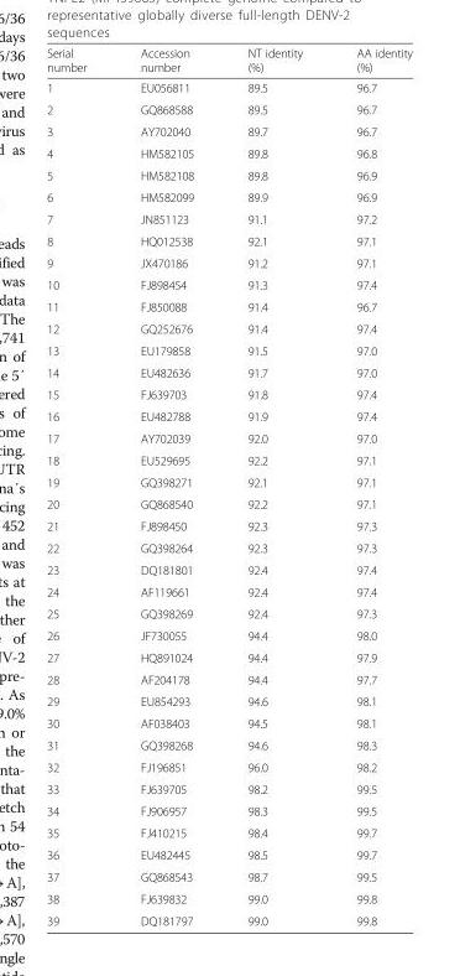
<table><thead><tr><td>Serial number</td><td>Accession number</td><td>NT identity (%)</td><td>AA identity (%)</td></tr></thead><tbody><tr><td>1</td><td>EU056811</td><td>89.5</td><td>96.7</td></tr><tr><td>2</td><td>GQ868588</td><td>89.5</td><td>96.7</td></tr><tr><td>3</td><td>AY702040</td><td>89.7</td><td>96.7</td></tr><tr><td>4</td><td>HM582105</td><td>89.8</td><td>96.8</td></tr><tr><td>5</td><td>HM582108</td><td>89.8</td><td>96.9</td></tr><tr><td>6</td><td>HM582099</td><td>89.9</td><td>96.9</td></tr><tr><td>7</td><td>JN851123</td><td>91.1</td><td>97.2</td></tr><tr><td>8</td><td>HQ012538</td><td>92.1</td><td>97.1</td></tr><tr><td>9</td><td>JX470186</td><td>91.2</td><td>97.1</td></tr><tr><td>10</td><td>FJ898454</td><td>91.3</td><td>97.4</td></tr><tr><td>11</td><td>FJ850088</td><td>91.4</td><td>96.7</td></tr><tr><td>12</td><td>GQ252676</td><td>91.4</td><td>97.4</td></tr><tr><td>13</td><td>EU179858</td><td>91.5</td><td>97.0</td></tr><tr><td>14</td><td>EU482636</td><td>91.7</td><td>97.0</td></tr><tr><td>15</td><td>FJ639703</td><td>91.8</td><td>97.4</td></tr><tr><td>16</td><td>EU482788</td><td>91.9</td><td>97.4</td></tr><tr><td>17</td><td>AY702039</td><td>92.0</td><td>97.0</td></tr><tr><td>18</td><td>EU529695</td><td>92.2</td><td>97.1</td></tr><tr><td>19</td><td>GQ398271</td><td>92.1</td><td>97.1</td></tr><tr><td>20</td><td>GQ868540</td><td>92.2</td><td>97.1</td></tr><tr><td>21</td><td>FJ898450</td><td>92.3</td><td>97.3</td></tr><tr><td>22</td><td>GQ398264</td><td>92.3</td><td>97.3</td></tr><tr><td>23</td><td>DQ181801</td><td>92.4</td><td>97.4</td></tr><tr><td>24</td><td>AF119661</td><td>92.4</td><td>97.4</td></tr><tr><td>25</td><td>GQ398269</td><td>92.4</td><td>97.3</td></tr><tr><td>26</td><td>JF730055</td><td>94.4</td><td>98.0</td></tr><tr><td>27</td><td>HQ891024</td><td>94.4</td><td>97.9</td></tr><tr><td>28</td><td>AF204178</td><td>94.4</td><td>97.7</td></tr><tr><td>29</td><td>EU854293</td><td>94.6</td><td>98.1</td></tr><tr><td>30</td><td>AF038403</td><td>94.5</td><td>98.1</td></tr><tr><td>31</td><td>GQ398268</td><td>94.6</td><td>98.3</td></tr><tr><td>32</td><td>FJ196851</td><td>96.0</td><td>98.2</td></tr><tr><td>33</td><td>FJ639705</td><td>98.2</td><td>99.5</td></tr><tr><td>34</td><td>FJ906957</td><td>98.3</td><td>99.5</td></tr><tr><td>35</td><td>FJ410215</td><td>98.4</td><td>99.7</td></tr><tr><td>36</td><td>EU482445</td><td>98.5</td><td>99.7</td></tr><tr><td>37</td><td>GQ868543</td><td>98.7</td><td>99.5</td></tr><tr><td>38</td><td>FJ639832</td><td>99.0</td><td>99.8</td></tr><tr><td>39</td><td>DQ181797</td><td>99.0</td><td>99.8</td></tr></tbody></table>